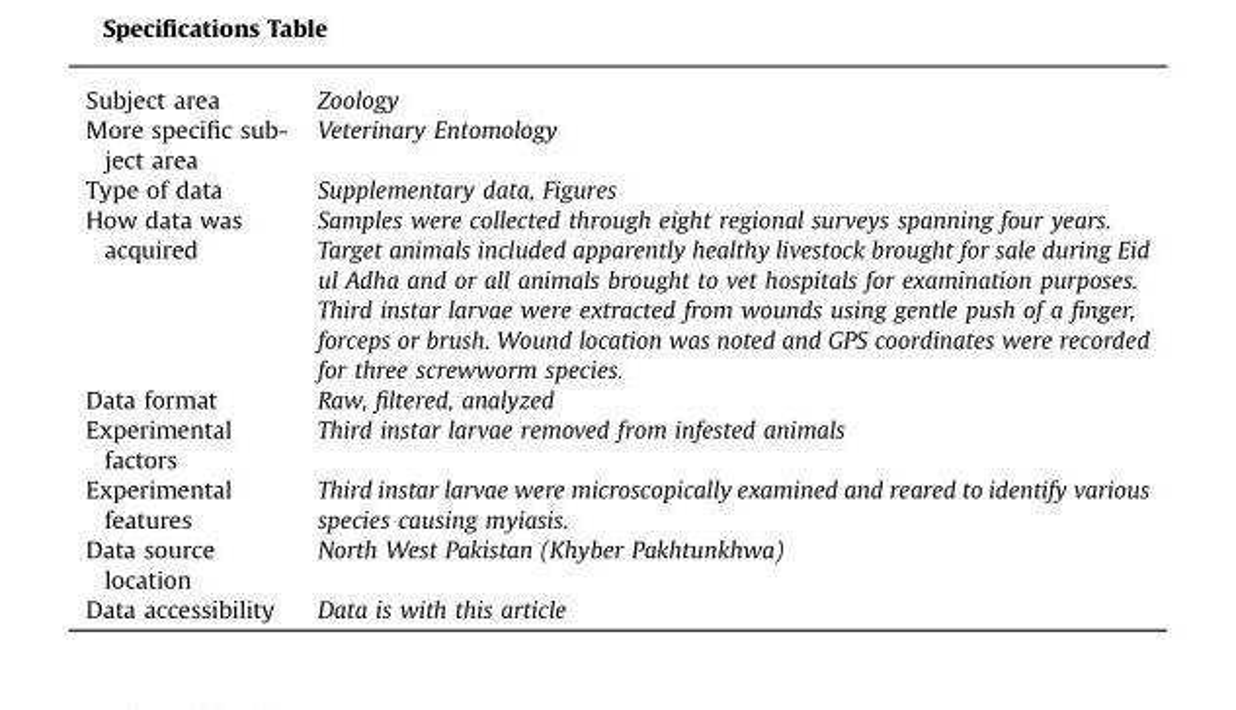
<table><tbody><tr><td>Subject area</td><td>Zoology</td></tr><tr><td>More specific sub- ject area</td><td>Veterinary Entomology</td></tr><tr><td>Type of data</td><td>Supplementary data, Figures</td></tr><tr><td>How data was acquired</td><td>Samples were collected through eight regional surveys spanning four years. Target animals included apparently healthy livestock brought for sale during Eid ul Adha and or all animals brought to vet hospitals for examination purposes. Third instar larvae were extracted from wounds using gentle push of a finger, forceps or brush. Wound location was noted and GPS coordinates were recorded for three screwworm species.</td></tr><tr><td>Data format</td><td>Raw, filtered, analyzed</td></tr><tr><td>Experimental factors</td><td>Third instar larvae removed from infested animals</td></tr><tr><td>Experimental features</td><td>Third instar larvae were microscopically examined and reared to identify various species causing myiasis.</td></tr><tr><td>Data source location</td><td>North West Pakistan (Khyber Pakhtunkhwa)</td></tr><tr><td>Data accessibility</td><td>Data is with this article</td></tr></tbody></table>